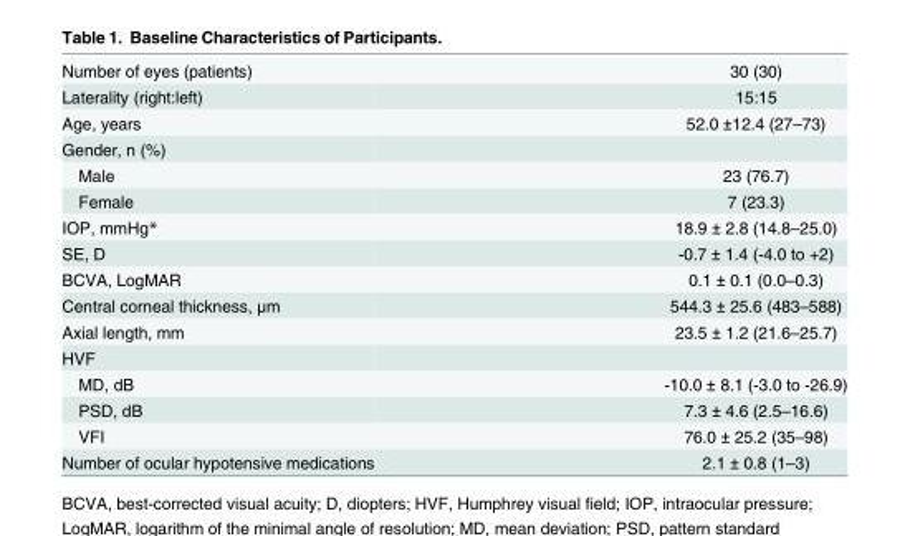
<table><tbody><tr><td>Number of eyes (patients)</td><td>30 (30)</td></tr><tr><td>Laterality (right:left)</td><td>15:15</td></tr><tr><td>Age, years</td><td>52.0 ±12.4 (27–73)</td></tr><tr><td colspan="2">Gender, n (%)</td></tr><tr><td>Male</td><td>23 (76.7)</td></tr><tr><td>Female</td><td>7 (23.3)</td></tr><tr><td>IOP, mmHg*</td><td>18.9 ± 2.8 (14.8–25.0)</td></tr><tr><td>SE, D</td><td>-0.7 ± 1.4 (-4.0 to +2)</td></tr><tr><td>BCVA, LogMAR</td><td>0.1 ± 0.1 (0.0–0.3)</td></tr><tr><td>Central corneal thickness, μm</td><td>544.3 ± 25.6 (483–588)</td></tr><tr><td>Axial length, mm</td><td>23.5 ± 1.2 (21.6–25.7)</td></tr><tr><td colspan="2">HVF</td></tr><tr><td>MD, dB</td><td>-10.0 ± 8.1 (-3.0 to -26.9)</td></tr><tr><td>PSD, dB</td><td>7.3 ± 4.6 (2.5–16.6)</td></tr><tr><td>VFI</td><td>76.0 ± 25.2 (35–98)</td></tr><tr><td>Number of ocular hypotensive medications</td><td>2.1 ± 0.8 (1–3)</td></tr></tbody></table>